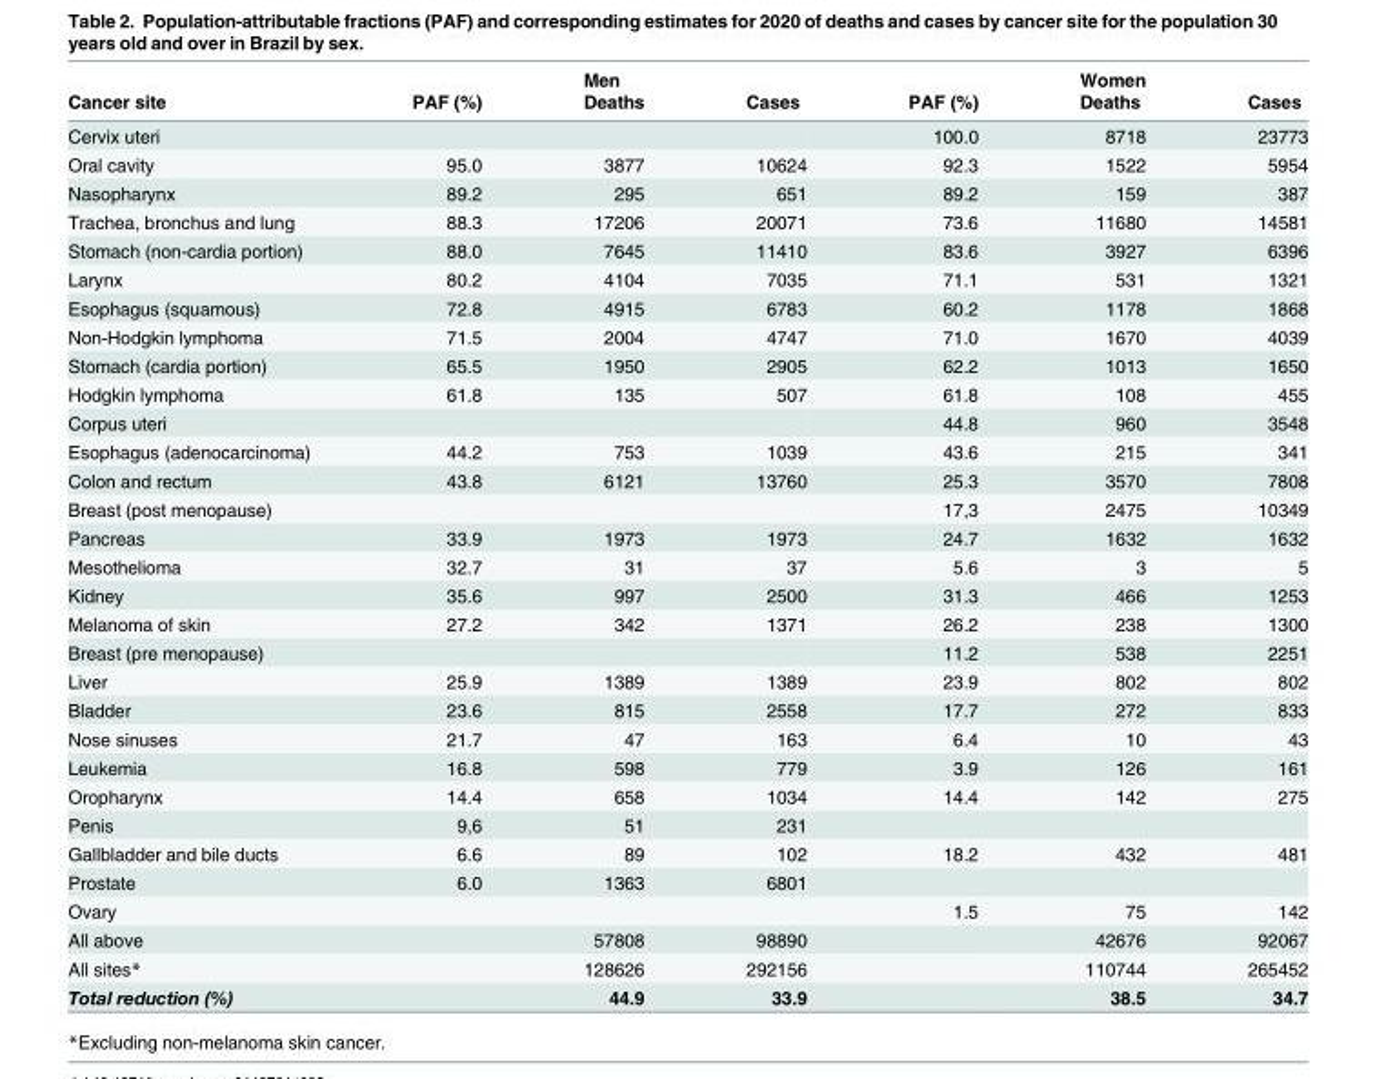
<table><thead><tr><td rowspan="2">Cancer site</td><td rowspan="2">PAF (%)</td><td rowspan="2">Men Deaths</td><td rowspan="2">Cases</td><td rowspan="2">PAF (%)</td><td rowspan="2">Women Deaths</td><td rowspan="2">Cases</td></tr><tr></tr></thead><tbody><tr><td>Cervix uteri</td><td></td><td></td><td></td><td>100.0</td><td>8718</td><td>23773</td></tr><tr><td>Oral cavity</td><td>95.0</td><td>3877</td><td>10624</td><td>92.3</td><td>1522</td><td>5954</td></tr><tr><td>Nasopharynx</td><td>89.2</td><td>295</td><td>651</td><td>89.2</td><td>159</td><td>387</td></tr><tr><td>Trachea, bronchus and lung</td><td>88.3</td><td>17206</td><td>20071</td><td>73.6</td><td>11680</td><td>14581</td></tr><tr><td>Stomach (non-cardia portion)</td><td>88.0</td><td>7645</td><td>11410</td><td>83.6</td><td>3927</td><td>6396</td></tr><tr><td>Larynx</td><td>80.2</td><td>4104</td><td>7035</td><td>71.1</td><td>531</td><td>1321</td></tr><tr><td>Esophagus (squamous)</td><td>72.8</td><td>4915</td><td>6783</td><td>60.2</td><td>1178</td><td>1868</td></tr><tr><td>Non-Hodgkin lymphoma</td><td>71.5</td><td>2004</td><td>4747</td><td>71.0</td><td>1670</td><td>4039</td></tr><tr><td>Stomach (cardia portion)</td><td>65.5</td><td>1950</td><td>2905</td><td>62.2</td><td>1013</td><td>1650</td></tr><tr><td>Hodgkin lymphoma</td><td>61.8</td><td>135</td><td>507</td><td>61.8</td><td>108</td><td>455</td></tr><tr><td>Corpus uteri</td><td></td><td></td><td></td><td>44.8</td><td>960</td><td>3548</td></tr><tr><td>Esophagus (adenocarcinoma)</td><td>44.2</td><td>753</td><td>1039</td><td>43.6</td><td>215</td><td>341</td></tr><tr><td>Colon and rectum</td><td>43.8</td><td>6121</td><td>13760</td><td>25.3</td><td>3570</td><td>7808</td></tr><tr><td>Breast (post menopause)</td><td></td><td></td><td></td><td>17,3</td><td>2475</td><td>10349</td></tr><tr><td>Pancreas</td><td>33.9</td><td>1973</td><td>1973</td><td>24.7</td><td>1632</td><td>1632</td></tr><tr><td>Mesothelioma</td><td>32.7</td><td>31</td><td>37</td><td>5.6</td><td>3</td><td>5</td></tr><tr><td>Kidney</td><td>35.6</td><td>997</td><td>2500</td><td>31.3</td><td>466</td><td>1253</td></tr><tr><td>Melanoma of skin</td><td>27.2</td><td>342</td><td>1371</td><td>26.2</td><td>238</td><td>1300</td></tr><tr><td>Breast (pre menopause)</td><td></td><td></td><td></td><td>11.2</td><td>538</td><td>2251</td></tr><tr><td>Liver</td><td>25.9</td><td>1389</td><td>1389</td><td>23.9</td><td>802</td><td>802</td></tr><tr><td>Bladder</td><td>23.6</td><td>815</td><td>2558</td><td>17.7</td><td>272</td><td>833</td></tr><tr><td>Nose sinuses</td><td>21.7</td><td>47</td><td>163</td><td>6.4</td><td>10</td><td>43</td></tr><tr><td>Leukemia</td><td>16.8</td><td>598</td><td>779</td><td>3.9</td><td>126</td><td>161</td></tr><tr><td>Oropharynx</td><td>14.4</td><td>658</td><td>1034</td><td>14.4</td><td>142</td><td>275</td></tr><tr><td>Penis</td><td>9,6</td><td>51</td><td>231</td><td></td><td></td><td></td></tr><tr><td>Gallbladder and bile ducts</td><td>6.6</td><td>89</td><td>102</td><td>18.2</td><td>432</td><td>481</td></tr><tr><td>Prostate</td><td>6.0</td><td>1363</td><td>6801</td><td></td><td></td><td></td></tr><tr><td>Ovary</td><td></td><td></td><td></td><td>1.5</td><td>75</td><td>142</td></tr><tr><td>All above</td><td></td><td>57808</td><td>98890</td><td></td><td>42676</td><td>92067</td></tr><tr><td>All sites*</td><td></td><td>128626</td><td>292156</td><td></td><td>110744</td><td>265452</td></tr><tr><td>Total reduction (%)</td><td></td><td>44.9</td><td>33.9</td><td></td><td>38.5</td><td>34.7</td></tr></tbody></table>